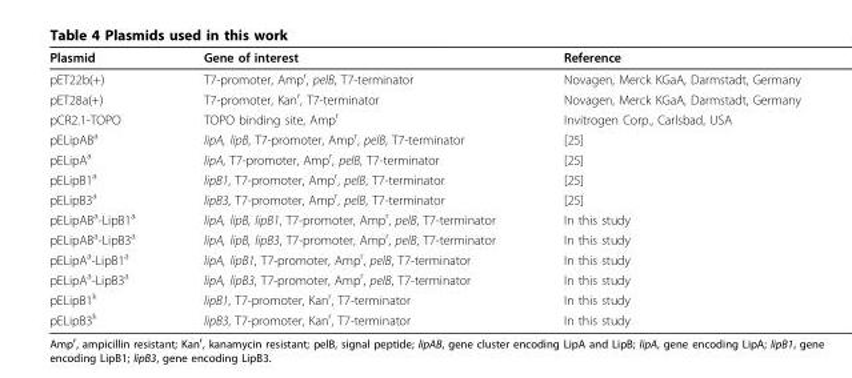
<table><thead><tr><td>Plasmid</td><td>Gene of interest</td><td>Reference</td></tr></thead><tbody><tr><td>pET22b(+)</td><td>T7-promoter, Amp<sup>r</sup>, pelB, T7-terminator</td><td>Novagen, Merck KGaA, Darmstadt, Germany</td></tr><tr><td>pET28a(+)</td><td>T7-promoter, Kan<sup>r</sup>, T7-terminator</td><td>Novagen, Merck KGaA, Darmstadt, Germany</td></tr><tr><td>pCR2.1-TOPO</td><td>TOPO binding site, Amp<sup>r</sup></td><td>Invitrogen Corp., Carlsbad, USA</td></tr><tr><td>pELipAB<sup>a</sup></td><td>lipA, lipB, T7-promoter, Amp<sup>r</sup>, pelB, T7-terminator</td><td>[25]</td></tr><tr><td>pELipA<sup>a</sup></td><td>lipA, T7-promoter, Amp<sup>r</sup>, pelB, T7-terminator</td><td>[25]</td></tr><tr><td>pELipB1<sup>a</sup></td><td>lipB1, T7-promoter, Amp<sup>r</sup>, pelB, T7-terminator</td><td>[25]</td></tr><tr><td>pELipB3<sup>a</sup></td><td>lipB3, T7-promoter, Amp<sup>r</sup>, pelB, T7-terminator</td><td>[25]</td></tr><tr><td>pELipAB<sup>a</sup>-LipB1<sup>a</sup></td><td>lipA, lipB, lipB1, T7-promoter, Amp<sup>r</sup>, pelB, T7-terminator</td><td>In this study</td></tr><tr><td>pELipAB<sup>a</sup>-LipB3<sup>a</sup></td><td>lipA, lipB, lipB3, T7-promoter, Amp<sup>r</sup>, pelB, T7-terminator</td><td>In this study</td></tr><tr><td>pELipA<sup>a</sup>-LipB1<sup>a</sup></td><td>lipA, lipB1, T7-promoter, Amp<sup>r</sup>, pelB, T7-terminator</td><td>In this study</td></tr><tr><td>pELipA<sup>a</sup>-LipB3<sup>a</sup></td><td>lipA, lipB3, T7-promoter, Amp<sup>r</sup>, pelB, T7-terminator</td><td>In this study</td></tr><tr><td>pELipB1<sup>k</sup></td><td>lipB1, T7-promoter, Kan<sup>r</sup>, T7-terminator</td><td>In this study</td></tr><tr><td>pELipB3<sup>k</sup></td><td>lipB3, T7-promoter, Kan<sup>r</sup>, T7-terminator</td><td>In this study</td></tr></tbody></table>